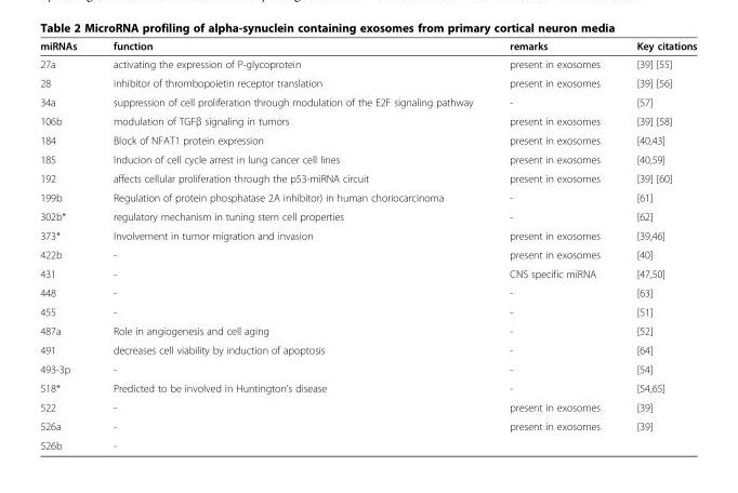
<table><thead><tr><td>miRNAs</td><td>function</td><td>remarks</td><td>Key citations</td></tr></thead><tbody><tr><td>27a</td><td>activating the expression of P-glycoprotein</td><td>present in exosomes</td><td>[39] [55]</td></tr><tr><td>28</td><td>inhibitor of thrombopoietin receptor translation</td><td>present in exosomes</td><td>[39] [56]</td></tr><tr><td>34a</td><td>suppression of cell proliferation through modulation of the E2F signaling pathway</td><td>-</td><td>[57]</td></tr><tr><td>106b</td><td>modulation of TGFβ signaling in tumors</td><td>present in exosomes</td><td>[39] [58]</td></tr><tr><td>184</td><td>Block of NFAT1 protein expression</td><td>present in exosomes</td><td>[40,43]</td></tr><tr><td>185</td><td>Inducion of cell cycle arrest in lung cancer cell lines</td><td>present in exosomes</td><td>[40,59]</td></tr><tr><td>192</td><td>affects cellular proliferation through the p53-miRNA circuit</td><td>present in exosomes</td><td>[39] [60]</td></tr><tr><td>199b</td><td>Regulation of protein phosphatase 2A inhibitor) in human choriocarcinoma</td><td>-</td><td>[61]</td></tr><tr><td>302b*</td><td>regulatory mechanism in tuning stem cell properties</td><td>-</td><td>[62]</td></tr><tr><td>373*</td><td>Involvement in tumor migration and invasion</td><td>present in exosomes</td><td>[39,46]</td></tr><tr><td>422b</td><td>-</td><td>present in exosomes</td><td>[40]</td></tr><tr><td>431</td><td>-</td><td>CNS specific miRNA</td><td>[47,50]</td></tr><tr><td>448</td><td>-</td><td>-</td><td>[63]</td></tr><tr><td>455</td><td>-</td><td>-</td><td>[51]</td></tr><tr><td>487a</td><td>Role in angiogenesis and cell aging</td><td>-</td><td>[52]</td></tr><tr><td>491</td><td>decreases cell viability by induction of apoptosis</td><td>-</td><td>[64]</td></tr><tr><td>493-3p</td><td>-</td><td>-</td><td>[54]</td></tr><tr><td>518*</td><td>Predicted to be involved in Huntington’s disease</td><td>-</td><td>[54,65]</td></tr><tr><td>522</td><td>-</td><td>present in exosomes</td><td>[39]</td></tr><tr><td>526a</td><td>-</td><td>present in exosomes</td><td>[39]</td></tr><tr><td>526b</td><td>-</td><td></td><td></td></tr></tbody></table>